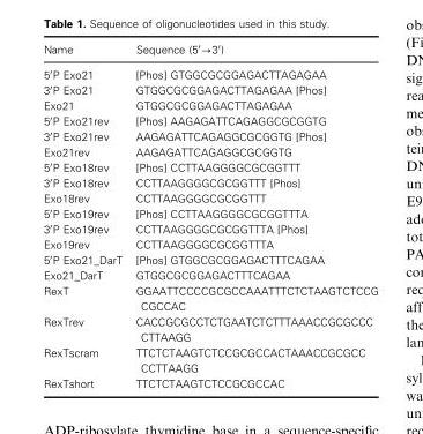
<table><thead><tr><td>Name</td><td>Sequence (5′→3′)</td></tr></thead><tbody><tr><td>5′P Exo21</td><td>[Phos] GTGGCGCGGAGACTTAGAGAA</td></tr><tr><td>3′P Exo21</td><td>GTGGCGCGGAGACTTAGAGAA [Phos]</td></tr><tr><td>Exo21</td><td>GTGGCGCGGAGACTTAGAGAA</td></tr><tr><td>5′P Exo21rev</td><td>[Phos] AAGAGATTCAGAGGCGCGGTG</td></tr><tr><td>3′P Exo21rev</td><td>AAGAGATTCAGAGGCGCGGTG [Phos]</td></tr><tr><td>Exo21rev</td><td>AAGAGATTCAGAGGCGCGGTG</td></tr><tr><td>5′P Exo18rev</td><td>[Phos] CCTTAAGGGGCGCGGTTT</td></tr><tr><td>3′P Exo18rev</td><td>CCTTAAGGGGCGCGGTTT [Phos]</td></tr><tr><td>Exo18rev</td><td>CCTTAAGGGGCGCGGTTT</td></tr><tr><td>5′P Exo19rev</td><td>[Phos] CCTTAAGGGGCGCGGTTTA</td></tr><tr><td>3′P Exo19rev</td><td>CCTTAAGGGGCGCGGTTTA [Phos]</td></tr><tr><td>Exo19rev</td><td>CCTTAAGGGGCGCGGTTTA</td></tr><tr><td>5′P Exo21_DarT</td><td>[Phos] GTGGCGCGGAGACTTTCAGAA</td></tr><tr><td>Exo21_DarT</td><td>GTGGCGCGGAGACTTTCAGAA</td></tr><tr><td>RexT</td><td>GGAATTCCCCGCGCCAAATTTCTCTAAGTCTCCG CGCCAC</td></tr><tr><td>RexTrev</td><td>CACCGCGCCTCTGAATCTCTTTAAACCGCGCCC CTTAAGG</td></tr><tr><td>RexTscram</td><td>TTCTCTAAGTCTCCGCGCCACTAAACCGCGCC CCTTAAGG</td></tr><tr><td>RexTshort</td><td>TTCTCTAAGTCTCCGCGCCAC</td></tr></tbody></table>